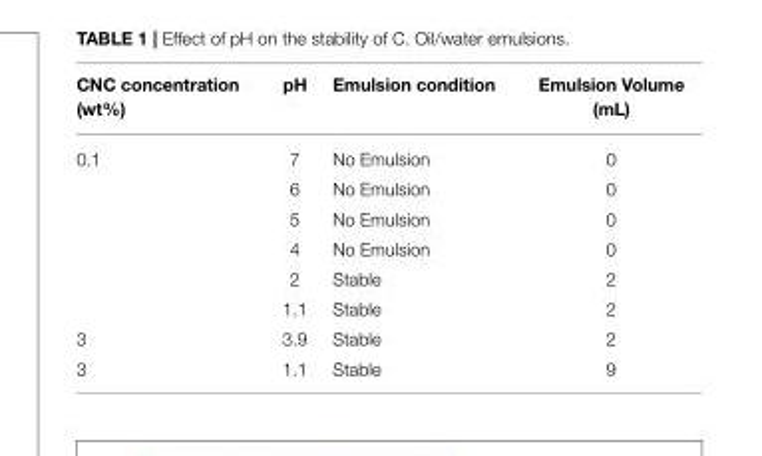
<table><thead><tr><td>CNC concentration (wt%)</td><td>pH</td><td>Emulsion condition</td><td>Emulsion Volume (mL)</td></tr></thead><tbody><tr><td rowspan="6">0.1</td><td>7</td><td>No Emulsion</td><td>0</td></tr><tr><td>6</td><td>No Emulsion</td><td>0</td></tr><tr><td>5</td><td>No Emulsion</td><td>0</td></tr><tr><td>4</td><td>No Emulsion</td><td>0</td></tr><tr><td>2</td><td>Stable</td><td>2</td></tr><tr><td>1.1</td><td>Stable</td><td>2</td></tr><tr><td>3</td><td>3.9</td><td>Stable</td><td>2</td></tr><tr><td>3</td><td>1.1</td><td>Stable</td><td>9</td></tr></tbody></table>